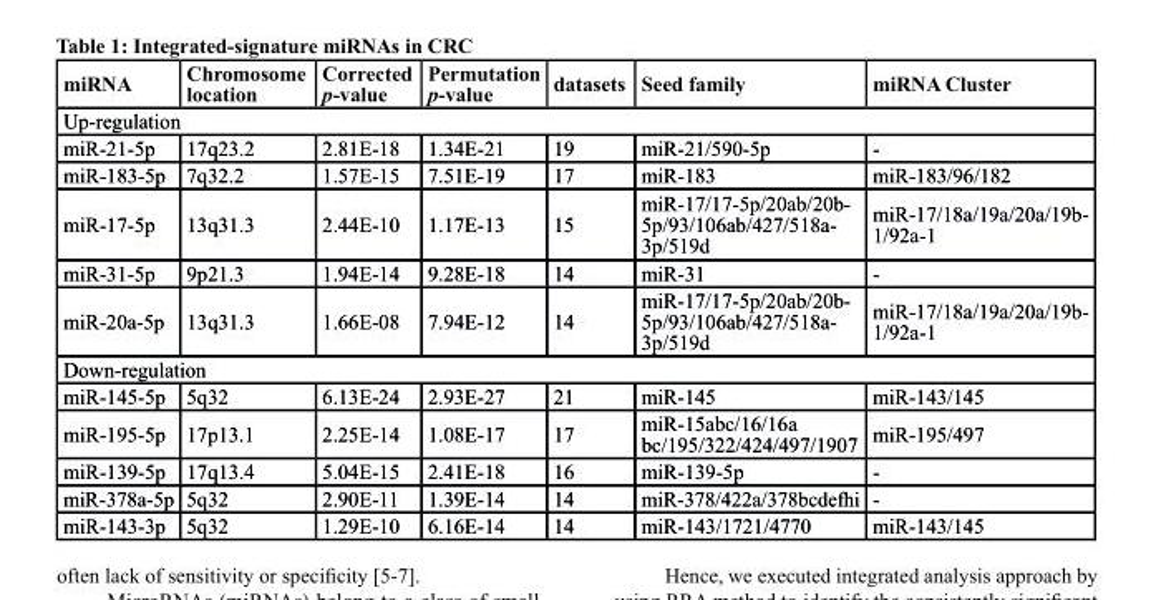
<table><thead><tr><td>mirnA</td><td>chromosome location</td><td>corrected p-value</td><td>Permutation p-value</td><td>datasets</td><td>seed family</td><td>mirnA cluster</td></tr></thead><tbody><tr><td colspan="7">Up-regulation</td></tr><tr><td>miR-21-5p</td><td>17q23.2</td><td>2.81E-18</td><td>1.34E-21</td><td>19</td><td>miR-21/590-5p</td><td>-</td></tr><tr><td>miR-183-5p</td><td>7q32.2</td><td>1.57E-15</td><td>7.51E-19</td><td>17</td><td>miR-183</td><td>miR-183/96/182</td></tr><tr><td>miR-17-5p</td><td>13q31.3</td><td>2.44E-10</td><td>1.17E-13</td><td>15</td><td>miR-17/17-5p/20ab/20b- 5p/93/106ab/427/518a- 3p/519d</td><td>miR-17/18a/19a/20a/19b- 1/92a-1</td></tr><tr><td>miR-31-5p</td><td>9p21.3</td><td>1.94E-14</td><td>9.28E-18</td><td>14</td><td>miR-31</td><td>-</td></tr><tr><td>miR-20a-5p</td><td>13q31.3</td><td>1.66E-08</td><td>7.94E-12</td><td>14</td><td>miR-17/17-5p/20ab/20b- 5p/93/106ab/427/518a- 3p/519d</td><td>miR-17/18a/19a/20a/19b- 1/92a-1</td></tr><tr><td colspan="7">Down-regulation</td></tr><tr><td>miR-145-5p</td><td>5q32</td><td>6.13E-24</td><td>2.93E-27</td><td>21</td><td>miR-145</td><td>miR-143/145</td></tr><tr><td>miR-195-5p</td><td>17p13.1</td><td>2.25E-14</td><td>1.08E-17</td><td>17</td><td>miR-15abc/16/16a bc/195/322/424/497/1907</td><td>miR-195/497</td></tr><tr><td>miR-139-5p</td><td>17q13.4</td><td>5.04E-15</td><td>2.41E-18</td><td>16</td><td>miR-139-5p</td><td>-</td></tr><tr><td>miR-378a-5p</td><td>5q32</td><td>2.90E-11</td><td>1.39E-14</td><td>14</td><td>miR-378/422a/378bcdefhi</td><td>-</td></tr><tr><td>miR-143-3p</td><td>5q32</td><td>1.29E-10</td><td>6.16E-14</td><td>14</td><td>miR-143/1721/4770</td><td>miR-143/145</td></tr></tbody></table>